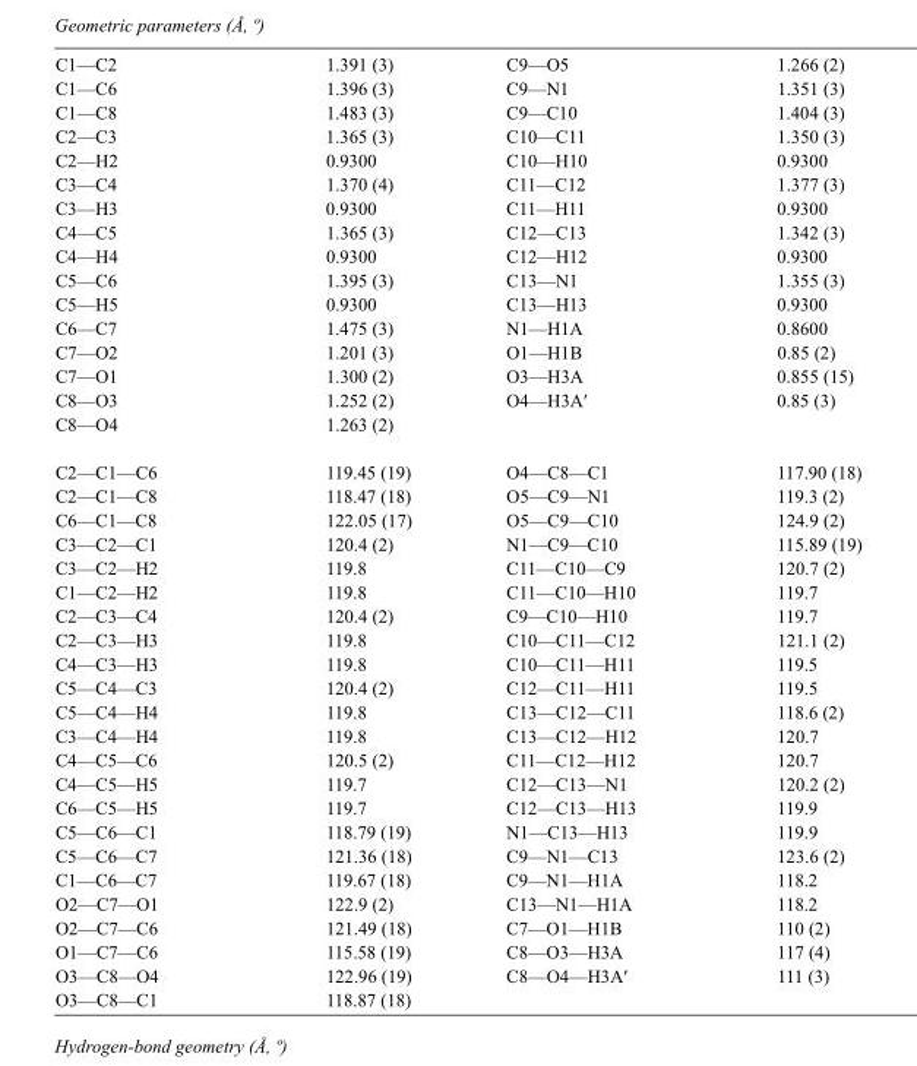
<table><tbody><tr><td>C1—C2</td><td>1.391 (3)</td><td>C9—O5</td><td>1.266 (2)</td></tr><tr><td>C1—C6</td><td>1.396 (3)</td><td>C9—N1</td><td>1.351 (3)</td></tr><tr><td>C1—C8</td><td>1.483 (3)</td><td>C9—C10</td><td>1.404 (3)</td></tr><tr><td>C2—C3</td><td>1.365 (3)</td><td>C10—C11</td><td>1.350 (3)</td></tr><tr><td>C2—H2</td><td>0.9300</td><td>C10—H10</td><td>0.9300</td></tr><tr><td>C3—C4</td><td>1.370 (4)</td><td>C11—C12</td><td>1.377 (3)</td></tr><tr><td>C3—H3</td><td>0.9300</td><td>C11—H11</td><td>0.9300</td></tr><tr><td>C4—C5</td><td>1.365 (3)</td><td>C12—C13</td><td>1.342 (3)</td></tr><tr><td>C4—H4</td><td>0.9300</td><td>C12—H12</td><td>0.9300</td></tr><tr><td>C5—C6</td><td>1.395 (3)</td><td>C13—N1</td><td>1.355 (3)</td></tr><tr><td>C5—H5</td><td>0.9300</td><td>C13—H13</td><td>0.9300</td></tr><tr><td>C6—C7</td><td>1.475 (3)</td><td>N1—H1A</td><td>0.8600</td></tr><tr><td>C7—O2</td><td>1.201 (3)</td><td>O1—H1B</td><td>0.85 (2)</td></tr><tr><td>C7—O1</td><td>1.300 (2)</td><td>O3—H3A</td><td>0.855 (15)</td></tr><tr><td>C8—O3</td><td>1.252 (2)</td><td>O4—H3A′</td><td>0.85 (3)</td></tr><tr><td>C8—O4</td><td>1.263 (2)</td><td></td><td></td></tr><tr><td>C2—C1—C6</td><td>119.45 (19)</td><td>O4—C8—C1</td><td>117.90 (18)</td></tr><tr><td>C2—C1—C8</td><td>118.47 (18)</td><td>O5—C9—N1</td><td>119.3 (2)</td></tr><tr><td>C6—C1—C8</td><td>122.05 (17)</td><td>O5—C9—C10</td><td>124.9 (2)</td></tr><tr><td>C3—C2—C1</td><td>120.4 (2)</td><td>N1—C9—C10</td><td>115.89 (19)</td></tr><tr><td>C3—C2—H2</td><td>119.8</td><td>C11—C10—C9</td><td>120.7 (2)</td></tr><tr><td>C1—C2—H2</td><td>119.8</td><td>C11—C10—H10</td><td>119.7</td></tr><tr><td>C2—C3—C4</td><td>120.4 (2)</td><td>C9—C10—H10</td><td>119.7</td></tr><tr><td>C2—C3—H3</td><td>119.8</td><td>C10—C11—C12</td><td>121.1 (2)</td></tr><tr><td>C4—C3—H3</td><td>119.8</td><td>C10—C11—H11</td><td>119.5</td></tr><tr><td>C5—C4—C3</td><td>120.4 (2)</td><td>C12—C11—H11</td><td>119.5</td></tr><tr><td>C5—C4—H4</td><td>119.8</td><td>C13—C12—C11</td><td>118.6 (2)</td></tr><tr><td>C3—C4—H4</td><td>119.8</td><td>C13—C12—H12</td><td>120.7</td></tr><tr><td>C4—C5—C6</td><td>120.5 (2)</td><td>C11—C12—H12</td><td>120.7</td></tr><tr><td>C4—C5—H5</td><td>119.7</td><td>C12—C13—N1</td><td>120.2 (2)</td></tr><tr><td>C6—C5—H5</td><td>119.7</td><td>C12—C13—H13</td><td>119.9</td></tr><tr><td>C5—C6—C1</td><td>118.79 (19)</td><td>N1—C13—H13</td><td>119.9</td></tr><tr><td>C5—C6—C7</td><td>121.36 (18)</td><td>C9—N1—C13</td><td>123.6 (2)</td></tr><tr><td>C1—C6—C7</td><td>119.67 (18)</td><td>C9—N1—H1A</td><td>118.2</td></tr><tr><td>O2—C7—O1</td><td>122.9 (2)</td><td>C13—N1—H1A</td><td>118.2</td></tr><tr><td>O2—C7—C6</td><td>121.49 (18)</td><td>C7—O1—H1B</td><td>110 (2)</td></tr><tr><td>O1—C7—C6</td><td>115.58 (19)</td><td>C8—O3—H3A</td><td>117 (4)</td></tr><tr><td>O3—C8—O4</td><td>122.96 (19)</td><td>C8—O4—H3A′</td><td>111 (3)</td></tr><tr><td>O3—C8—C1</td><td>118.87 (18)</td><td></td><td></td></tr></tbody></table>